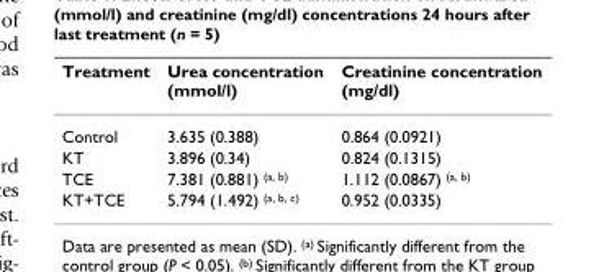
<table><thead><tr><td>Treatment</td><td>Urea concentration (mmol/l)</td><td>Creatinine concentration (mg/dl)</td></tr></thead><tbody><tr><td>Control</td><td>3.635 (0.388)</td><td>0.864 (0.0921)</td></tr><tr><td>KT</td><td>3.896 (0.34)</td><td>0.824 (0.1315)</td></tr><tr><td>TCE</td><td>7.381 (0.881) <sup>(a, b)</sup></td><td>1.112 (0.0867) <sup>(a, b)</sup></td></tr><tr><td>KT+TCE</td><td>5.794 (1.492) <sup>(a, b, c)</sup></td><td>0.952 (0.0335)</td></tr></tbody></table>